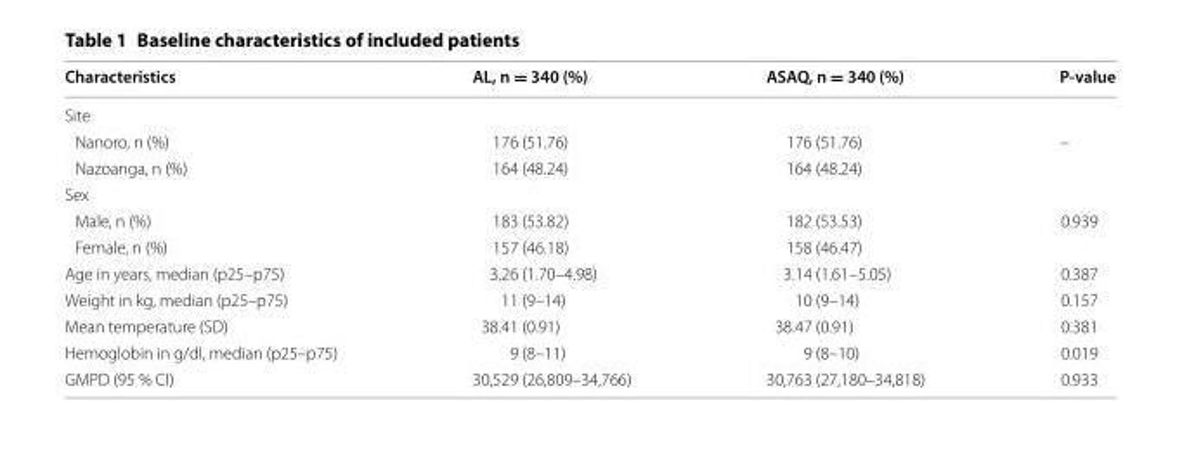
<table><thead><tr><td>Characteristics</td><td>AL, n = 340 (%)</td><td>ASAQ, n = 340 (%)</td><td>P-value</td></tr></thead><tbody><tr><td colspan="4">Site</td></tr><tr><td>Nanoro, n (%)</td><td>176 (51.76)</td><td>176 (51.76)</td><td rowspan="2">–</td></tr><tr><td>Nazoanga, n (%)</td><td>164 (48.24)</td><td>164 (48.24)</td></tr><tr><td colspan="4">Sex</td></tr><tr><td>Male, n (%)</td><td>183 (53.82)</td><td>182 (53.53)</td><td rowspan="2">0.939</td></tr><tr><td>Female, n (%)</td><td>157 (46.18)</td><td>158 (46.47)</td></tr><tr><td>Age in years, median (p25–p75)</td><td>3.26 (1.70–4.98)</td><td>3.14 (1.61–5.05)</td><td>0.387</td></tr><tr><td>Weight in kg, median (p25–p75)</td><td>11 (9–14)</td><td>10 (9–14)</td><td>0.157</td></tr><tr><td>Mean temperature (SD)</td><td>38.41 (0.91)</td><td>38.47 (0.91)</td><td>0.381</td></tr><tr><td>Hemoglobin in g/dl, median (p25–p75)</td><td>9 (8–11)</td><td>9 (8–10)</td><td>0.019</td></tr><tr><td>GMPD (95 % CI)</td><td>30,529 (26,809–34,766)</td><td>30,763 (27,180–34,818)</td><td>0.933</td></tr></tbody></table>